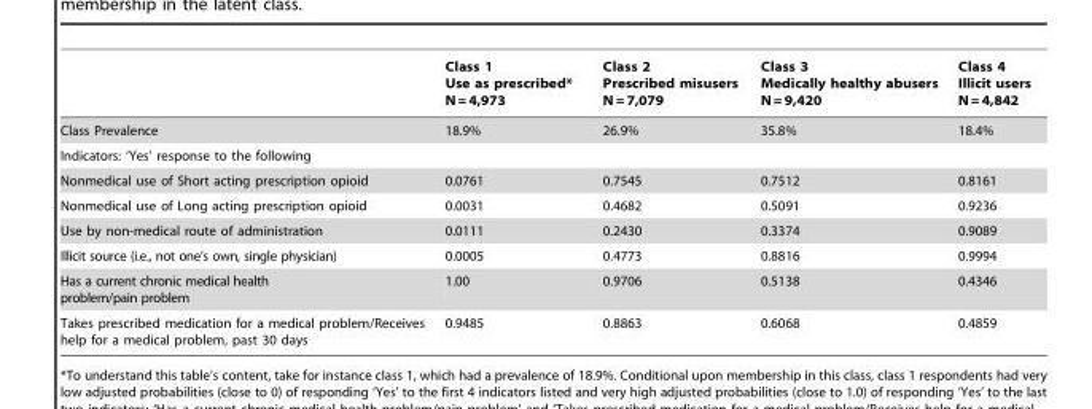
<table><thead><tr><td></td><td>Class 1 Use as prescribed* N = 4,973</td><td>Class 2 Prescribed misusers N = 7,079</td><td>Class 3 Medically healthy abusers N = 9,420</td><td>Class 4 Illicit users N = 4,842</td></tr></thead><tbody><tr><td>Class Prevalence</td><td>18.9%</td><td>26.9%</td><td>35.8%</td><td>18.4%</td></tr><tr><td colspan="5">Indicators: ‘Yes’ response to the following</td></tr><tr><td>Nonmedical use of Short acting prescription opioid</td><td>0.0761</td><td>0.7545</td><td>0.7512</td><td>0.8161</td></tr><tr><td>Nonmedical use of Long acting prescription opioid</td><td>0.0031</td><td>0.4682</td><td>0.5091</td><td>0.9236</td></tr><tr><td>Use by non-medical route of administration</td><td>0.0111</td><td>0.2430</td><td>0.3374</td><td>0.9089</td></tr><tr><td>Illicit source (i.e., not one’s own, single physician)</td><td>0.0005</td><td>0.4773</td><td>0.8816</td><td>0.9994</td></tr><tr><td>Has a current chronic medical health problem/pain problem</td><td>1.00</td><td>0.9706</td><td>0.5138</td><td>0.4346</td></tr><tr><td>Takes prescribed medication for a medical problem/Receives help for a medical problem, past 30 days</td><td>0.9485</td><td>0.8863</td><td>0.6068</td><td>0.4859</td></tr></tbody></table>